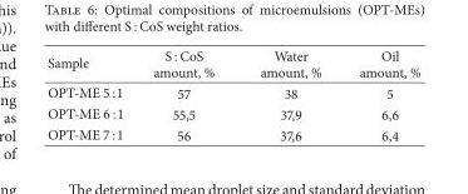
<table><thead><tr><td>Sample</td><td>S : CoS amount, %</td><td>Water amount, %</td><td>Oil amount, %</td></tr></thead><tbody><tr><td>OPT-ME 5 : 1</td><td>57</td><td>38</td><td>5</td></tr><tr><td>OPT-ME 6 : 1</td><td>55,5</td><td>37,9</td><td>6,6</td></tr><tr><td>OPT-ME 7 : 1</td><td>56</td><td>37,6</td><td>6,4</td></tr></tbody></table>